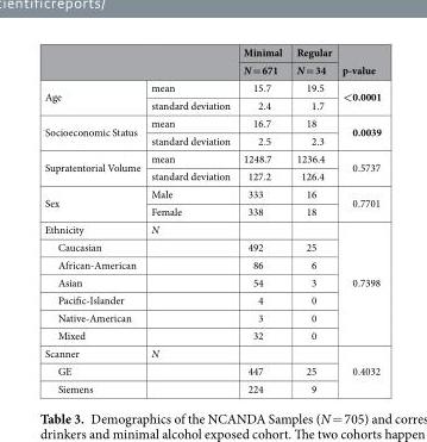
<table><thead><tr><td rowspan="2"></td><td rowspan="2"></td><td rowspan="2">Minimal N = 671</td><td rowspan="2">Regular N = 34</td><td rowspan="2">p-value</td></tr><tr></tr></thead><tbody><tr><td rowspan="2">Age</td><td>mean</td><td>15.7</td><td>19.5</td><td rowspan="2">&lt;0.0001</td></tr><tr><td>standard deviation</td><td>2.4</td><td>1.7</td></tr><tr><td rowspan="2">Socioeconomic Status</td><td>mean</td><td>16.7</td><td>18</td><td rowspan="2">0.0039</td></tr><tr><td>standard deviation</td><td>2.5</td><td>2.3</td></tr><tr><td rowspan="2">Supratentorial Volume</td><td>mean</td><td>1248.7</td><td>1236.4</td><td rowspan="2">0.5737</td></tr><tr><td>standard deviation</td><td>127.2</td><td>126.4</td></tr><tr><td rowspan="2">Sex</td><td>Male</td><td>333</td><td>16</td><td rowspan="2">0.7701</td></tr><tr><td>Female</td><td>338</td><td>18</td></tr><tr><td>Ethnicity</td><td>N</td><td></td><td></td><td rowspan="7">0.7398</td></tr><tr><td>Caucasian</td><td></td><td>492</td><td>25</td></tr><tr><td>African-American</td><td></td><td>86</td><td>6</td></tr><tr><td>Asian</td><td></td><td>54</td><td>3</td></tr><tr><td>Pacific-Islander</td><td></td><td>4</td><td>0</td></tr><tr><td>Native-American</td><td></td><td>3</td><td>0</td></tr><tr><td>Mixed</td><td></td><td>32</td><td>0</td></tr><tr><td>Scanner</td><td>N</td><td></td><td></td><td rowspan="3">0.4032</td></tr><tr><td>GE</td><td></td><td>447</td><td>25</td></tr><tr><td>Siemens</td><td></td><td>224</td><td>9</td></tr></tbody></table>